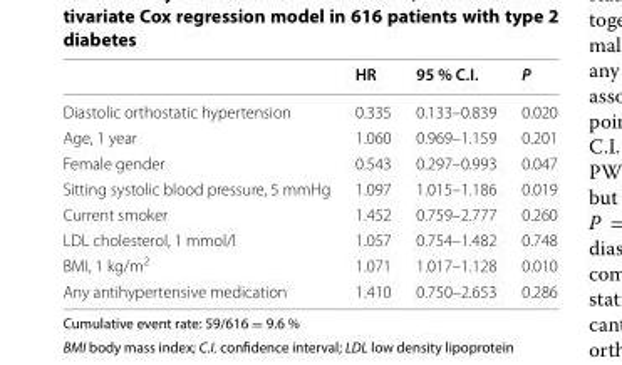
<table><thead><tr><td></td><td>HR</td><td>95 % C.I.</td><td>P</td></tr></thead><tbody><tr><td>Diastolic orthostatic hypertension</td><td>0.335</td><td>0.133–0.839</td><td>0.020</td></tr><tr><td>Age, 1 year</td><td>1.060</td><td>0.969–1.159</td><td>0.201</td></tr><tr><td>Female gender</td><td>0.543</td><td>0.297–0.993</td><td>0.047</td></tr><tr><td>Sitting systolic blood pressure, 5 mmHg</td><td>1.097</td><td>1.015–1.186</td><td>0.019</td></tr><tr><td>Current smoker</td><td>1.452</td><td>0.759–2.777</td><td>0.260</td></tr><tr><td>LDL cholesterol, 1 mmol/l</td><td>1.057</td><td>0.754–1.482</td><td>0.748</td></tr><tr><td>BMI, 1 kg/m<sup>2</sup></td><td>1.071</td><td>1.017–1.128</td><td>0.010</td></tr><tr><td>Any antihypertensive medication</td><td>1.410</td><td>0.750–2.653</td><td>0.286</td></tr></tbody></table>